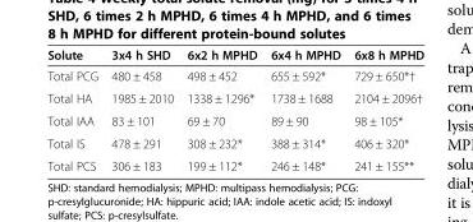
<table><thead><tr><td>Solute</td><td>3x4 h SHD</td><td>6x2 h MPHD</td><td>6x4 h MPHD</td><td>6x8 h MPHD</td></tr></thead><tbody><tr><td>Total PCG</td><td>480 ± 458</td><td>498 ± 452</td><td>655 ± 592*</td><td>729 ± 650*†</td></tr><tr><td>Total HA</td><td>1985 ± 2010</td><td>1338 ± 1296*</td><td>1738 ± 1688</td><td>2104 ± 2096†</td></tr><tr><td>Total IAA</td><td>83 ± 101</td><td>69 ± 70</td><td>89 ± 90</td><td>98 ± 105*</td></tr><tr><td>Total IS</td><td>478 ± 291</td><td>308 ± 232*</td><td>388 ± 314*</td><td>406 ± 320*</td></tr><tr><td>Total PCS</td><td>306 ± 183</td><td>199 ± 112*</td><td>246 ± 148*</td><td>241 ± 155**</td></tr></tbody></table>